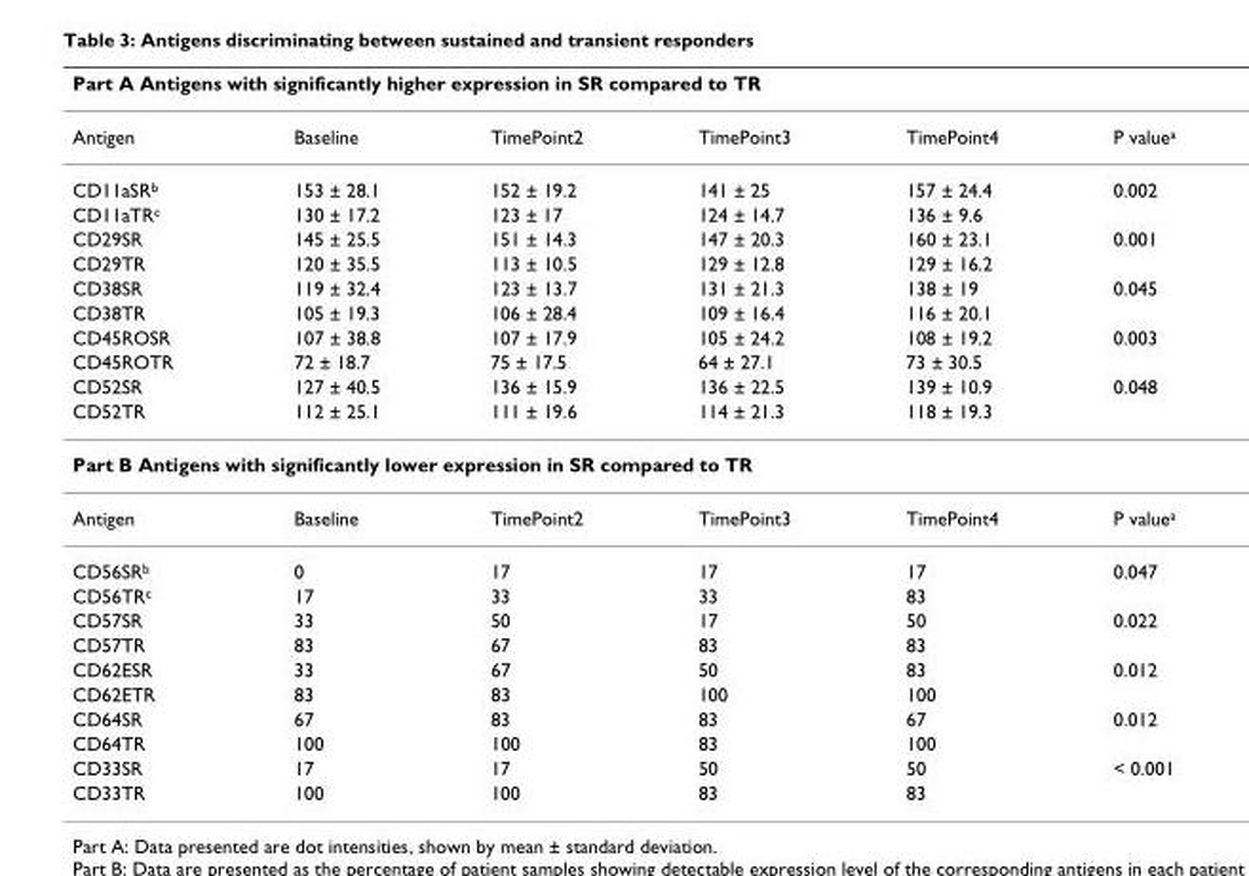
<table><thead><tr><td colspan="6">Part A Antigens with significantly higher expression in SR compared to TR</td></tr><tr><td>Antigen</td><td>Baseline</td><td>TimePoint2</td><td>TimePoint3</td><td>TimePoint4</td><td>P value<sup>a</sup></td></tr></thead><tbody><tr><td>CD11aSR<sup>b</sup></td><td>153 ± 28.1</td><td>152 ± 19.2</td><td>141 ± 25</td><td>157 ± 24.4</td><td>0.002</td></tr><tr><td>CD11aTR<sup>c</sup></td><td>130 ± 17.2</td><td>123 ± 17</td><td>124 ± 14.7</td><td>136 ± 9.6</td><td></td></tr><tr><td>CD29SR</td><td>145 ± 25.5</td><td>151 ± 14.3</td><td>147 ± 20.3</td><td>160 ± 23.1</td><td>0.001</td></tr><tr><td>CD29TR</td><td>120 ± 35.5</td><td>113 ± 10.5</td><td>129 ± 12.8</td><td>129 ± 16.2</td><td></td></tr><tr><td>CD38SR</td><td>119 ± 32.4</td><td>123 ± 13.7</td><td>131 ± 21.3</td><td>138 ± 19</td><td>0.045</td></tr><tr><td>CD38TR</td><td>105 ± 19.3</td><td>106 ± 28.4</td><td>109 ± 16.4</td><td>116 ± 20.1</td><td></td></tr><tr><td>CD45ROSR</td><td>107 ± 38.8</td><td>107 ± 17.9</td><td>105 ± 24.2</td><td>108 ± 19.2</td><td>0.003</td></tr><tr><td>CD45ROTR</td><td>72 ± 18.7</td><td>75 ± 17.5</td><td>64 ± 27.1</td><td>73 ± 30.5</td><td></td></tr><tr><td>CD52SR</td><td>127 ± 40.5</td><td>136 ± 15.9</td><td>136 ± 22.5</td><td>139 ± 10.9</td><td>0.048</td></tr><tr><td>CD52TR</td><td>112 ± 25.1</td><td>111 ± 19.6</td><td>114 ± 21.3</td><td>118 ± 19.3</td><td></td></tr><tr><td colspan="6">Part B Antigens with significantly lower expression in SR compared to TR</td></tr><tr><td>Antigen</td><td>Baseline</td><td>TimePoint2</td><td>TimePoint3</td><td>TimePoint4</td><td>P value<sup>a</sup></td></tr><tr><td>CD56SR<sup>b</sup></td><td>0</td><td>17</td><td>17</td><td>17</td><td>0.047</td></tr><tr><td>CD56TR<sup>c</sup></td><td>17</td><td>33</td><td>33</td><td>83</td><td></td></tr><tr><td>CD57SR</td><td>33</td><td>50</td><td>17</td><td>50</td><td>0.022</td></tr><tr><td>CD57TR</td><td>83</td><td>67</td><td>83</td><td>83</td><td></td></tr><tr><td>CD62ESR</td><td>33</td><td>67</td><td>50</td><td>83</td><td>0.012</td></tr><tr><td>CD62ETR</td><td>83</td><td>83</td><td>100</td><td>100</td><td></td></tr><tr><td>CD64SR</td><td>67</td><td>83</td><td>83</td><td>67</td><td>0.012</td></tr><tr><td>CD64TR</td><td>100</td><td>100</td><td>83</td><td>100</td><td></td></tr><tr><td>CD33SR</td><td>17</td><td>17</td><td>50</td><td>50</td><td>&lt; 0.001</td></tr><tr><td>CD33TR</td><td>100</td><td>100</td><td>83</td><td>83</td><td></td></tr></tbody></table>